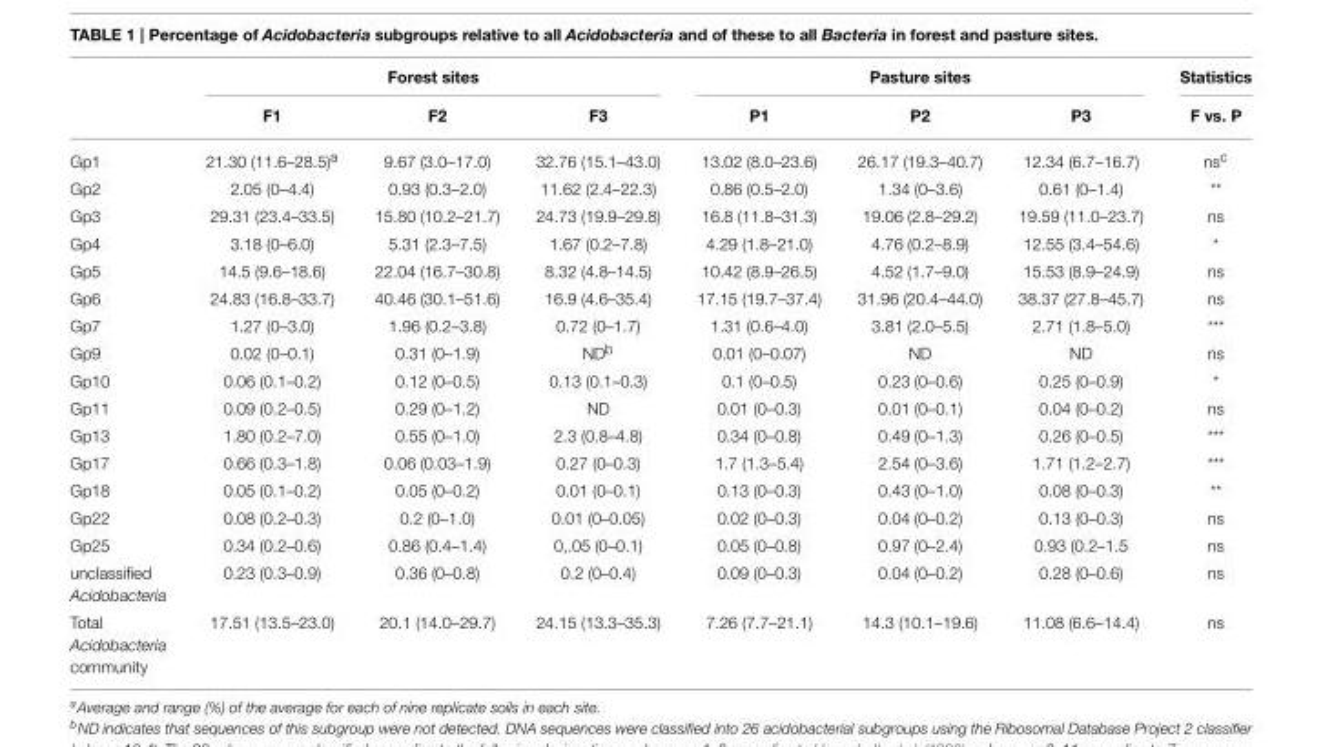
<table><thead><tr><td rowspan="2"></td><td colspan="3">Forest sites</td><td colspan="3">Pasture sites</td><td rowspan="2">Statistics F vs. P</td></tr><tr><td>F1</td><td>F2</td><td>F3</td><td>P1</td><td>P2</td><td>P3</td></tr></thead><tbody><tr><td>Gp1</td><td>21.30 (11.6–28.5)<sup>a</sup></td><td>9.67 (3.0–17.0)</td><td>32.76 (15.1–43.0)</td><td>13.02 (8.0–23.6)</td><td>26.17 (19.3–40.7)</td><td>12.34 (6.7–16.7)</td><td>ns<sup>c</sup></td></tr><tr><td>Gp2</td><td>2.05 (0–4.4)</td><td>0.93 (0.3–2.0)</td><td>11.62 (2.4–22.3)</td><td>0.86 (0.5–2.0)</td><td>1.34 (0–3.6)</td><td>0.61 (0–1.4)</td><td>**</td></tr><tr><td>Gp3</td><td>29.31 (23.4–33.5)</td><td>15.80 (10.2–21.7)</td><td>24.73 (19.9–29.8)</td><td>16.8 (11.8–31.3)</td><td>19.06 (2.8–29.2)</td><td>19.59 (11.0–23.7)</td><td>ns</td></tr><tr><td>Gp4</td><td>3.18 (0–6.0)</td><td>5.31 (2.3–7.5)</td><td>1.67 (0.2–7.8)</td><td>4.29 (1.8–21.0)</td><td>4.76 (0.2–8.9)</td><td>12.55 (3.4–54.6)</td><td>*</td></tr><tr><td>Gp5</td><td>14.5 (9.6–18.6)</td><td>22.04 (16.7–30.8)</td><td>8.32 (4.8–14.5)</td><td>10.42 (8.9–26.5)</td><td>4.52 (1.7–9.0)</td><td>15.53 (8.9–24.9)</td><td>ns</td></tr><tr><td>Gp6</td><td>24.83 (16.8–33.7)</td><td>40.46 (30.1–51.6)</td><td>16.9 (4.6–35.4)</td><td>17.15 (19.7–37.4)</td><td>31.96 (20.4–44.0)</td><td>38.37 (27.8–45.7)</td><td>ns</td></tr><tr><td>Gp7</td><td>1.27 (0–3.0)</td><td>1.96 (0.2–3.8)</td><td>0.72 (0–1.7)</td><td>1.31 (0.6–4.0)</td><td>3.81 (2.0–5.5)</td><td>2.71 (1.8–5.0)</td><td>***</td></tr><tr><td>Gp9</td><td>0.02 (0–0.1)</td><td>0.31 (0–1.9)</td><td>ND<sup>b</sup></td><td>0.01 (0–0.07)</td><td>ND</td><td>ND</td><td>ns</td></tr><tr><td>Gp10</td><td>0.06 (0.1–0.2)</td><td>0.12 (0–0.5)</td><td>0.13 (0.1–0.3)</td><td>0.1 (0–0.5)</td><td>0.23 (0–0.6)</td><td>0.25 (0–0.9)</td><td>*</td></tr><tr><td>Gp11</td><td>0.09 (0.2–0.5)</td><td>0.29 (0–1.2)</td><td>ND</td><td>0.01 (0–0.3)</td><td>0.01 (0–0.1)</td><td>0.04 (0–0.2)</td><td>ns</td></tr><tr><td>Gp13</td><td>1.80 (0.2–7.0)</td><td>0.55 (0–1.0)</td><td>2.3 (0.8–4.8)</td><td>0.34 (0–0.8)</td><td>0.49 (0–1.3)</td><td>0.26 (0–0.5)</td><td>***</td></tr><tr><td>Gp17</td><td>0.66 (0.3–1.8)</td><td>0.06 (0.03–1.9)</td><td>0.27 (0–0.3)</td><td>1.7 (1.3–5.4)</td><td>2.54 (0–3.6)</td><td>1.71 (1.2–2.7)</td><td>***</td></tr><tr><td>Gp18</td><td>0.05 (0.1–0.2)</td><td>0.05 (0–0.2)</td><td>0.01 (0–0.1)</td><td>0.13 (0–0.3)</td><td>0.43 (0–1.0)</td><td>0.08 (0–0.3)</td><td>**</td></tr><tr><td>Gp22</td><td>0.08 (0.2–0.3)</td><td>0.2 (0–1.0)</td><td>0.01 (0–0.05)</td><td>0.02 (0–0.3)</td><td>0.04 (0–0.2)</td><td>0.13 (0–0.3)</td><td>ns</td></tr><tr><td>Gp25</td><td>0.34 (0.2–0.6)</td><td>0.86 (0.4–1.4)</td><td>0,.05 (0–0.1)</td><td>0.05 (0–0.8)</td><td>0.97 (0–2.4)</td><td>0.93 (0.2–1.5</td><td>ns</td></tr><tr><td>unclassified Acidobacteria</td><td>0.23 (0.3–0.9)</td><td>0.36 (0–0.8)</td><td>0.2 (0–0.4)</td><td>0.09 (0–0.3)</td><td>0.04 (0–0.2)</td><td>0.28 (0–0.6)</td><td>ns</td></tr><tr><td>Total Acidobacteria community</td><td>17.51 (13.5–23.0)</td><td>20.1 (14.0–29.7)</td><td>24.15 (13.3–35.3)</td><td>7.26 (7.7–21.1)</td><td>14.3 (10.1–19.6)</td><td>11.08 (6.6–14.4)</td><td>ns</td></tr></tbody></table>